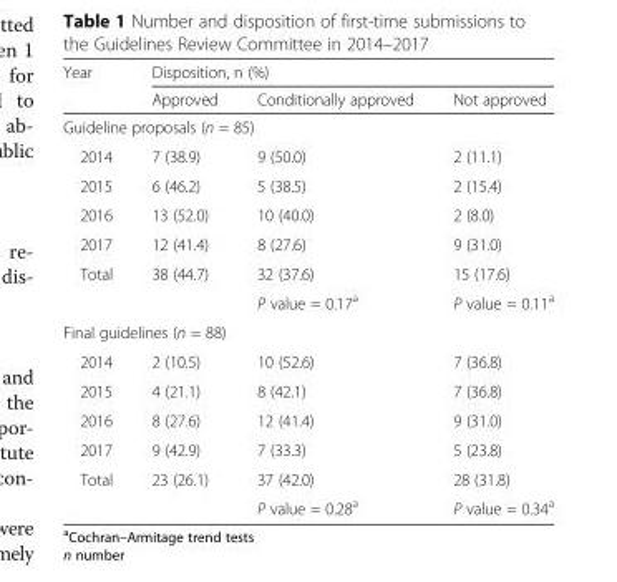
<table><thead><tr><td rowspan="2">Year</td><td colspan="3">Disposition, n (%)</td></tr><tr><td>Approved</td><td>Conditionally approved</td><td>Not approved</td></tr></thead><tbody><tr><td colspan="4">Guideline proposals (n = 85)</td></tr><tr><td>2014</td><td>7 (38.9)</td><td>9 (50.0)</td><td>2 (11.1)</td></tr><tr><td>2015</td><td>6 (46.2)</td><td>5 (38.5)</td><td>2 (15.4)</td></tr><tr><td>2016</td><td>13 (52.0)</td><td>10 (40.0)</td><td>2 (8.0)</td></tr><tr><td>2017</td><td>12 (41.4)</td><td>8 (27.6)</td><td>9 (31.0)</td></tr><tr><td rowspan="2">Total</td><td>38 (44.7)</td><td>32 (37.6)</td><td>15 (17.6)</td></tr><tr><td></td><td>P value = 0.17<sup>a</sup></td><td>P value = 0.11<sup>a</sup></td></tr><tr><td colspan="4">Final guidelines (n = 88)</td></tr><tr><td>2014</td><td>2 (10.5)</td><td>10 (52.6)</td><td>7 (36.8)</td></tr><tr><td>2015</td><td>4 (21.1)</td><td>8 (42.1)</td><td>7 (36.8)</td></tr><tr><td>2016</td><td>8 (27.6)</td><td>12 (41.4)</td><td>9 (31.0)</td></tr><tr><td>2017</td><td>9 (42.9)</td><td>7 (33.3)</td><td>5 (23.8)</td></tr><tr><td rowspan="2">Total</td><td>23 (26.1)</td><td>37 (42.0)</td><td>28 (31.8)</td></tr><tr><td></td><td>P value = 0.28<sup>a</sup></td><td>P value = 0.34<sup>a</sup></td></tr></tbody></table>